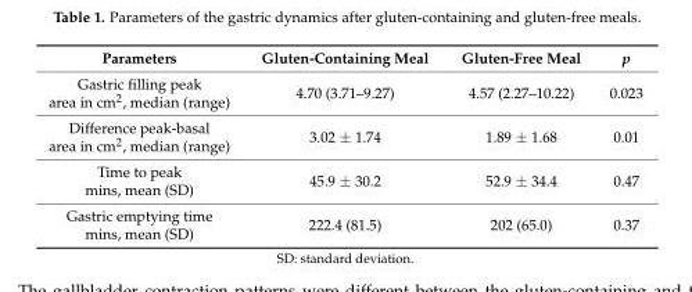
<table><thead><tr><td>Parameters</td><td>Gluten-Containing Meal</td><td>Gluten-Free Meal</td><td>p</td></tr></thead><tbody><tr><td>Gastric filling peak area in cm<sup>2</sup>, median (range)</td><td>4.70 (3.71–9.27)</td><td>4.57 (2.27–10.22)</td><td>0.023</td></tr><tr><td>Difference peak-basal area in cm<sup>2</sup>, median (range)</td><td>3.02 ± 1.74</td><td>1.89 ± 1.68</td><td>0.01</td></tr><tr><td>Time to peak mins, mean (SD)</td><td>45.9 ± 30.2</td><td>52.9 ± 34.4</td><td>0.47</td></tr><tr><td>Gastric emptying time mins, mean (SD)</td><td>222.4 (81.5)</td><td>202 (65.0)</td><td>0.37</td></tr></tbody></table>